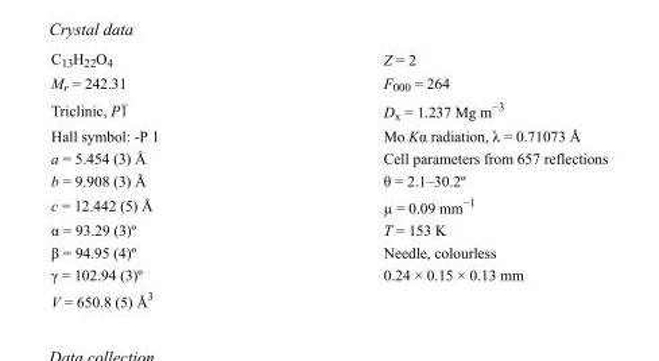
<table><tbody><tr><td>C<sub>13</sub>H<sub>22</sub>O<sub>4</sub></td><td>Z = 2</td></tr><tr><td>M<sub>r</sub> = 242.31</td><td>F000 = 264</td></tr><tr><td>Triclinic, P1</td><td>D<sub>x</sub> = 1.237 Mg m<sup>−3</sup></td></tr><tr><td>Hall symbol: -P 1</td><td>Mo Kα radiation, λ = 0.71073 Å</td></tr><tr><td>a = 5.454 (3) Å</td><td>Cell parameters from 657 reflections</td></tr><tr><td>b = 9.908 (3) Å</td><td>θ = 2.1–30.2º</td></tr><tr><td>c = 12.442 (5) Å</td><td>µ = 0.09 mm<sup>−1</sup></td></tr><tr><td>α = 93.29 (3)º</td><td>T = 153 K</td></tr><tr><td>β = 94.95 (4)º</td><td>Needle, colourless</td></tr><tr><td>γ = 102.94 (3)º</td><td>0.24 × 0.15 × 0.13 mm</td></tr><tr><td>V = 650.8 (5) Å<sup>3</sup></td><td></td></tr></tbody></table>